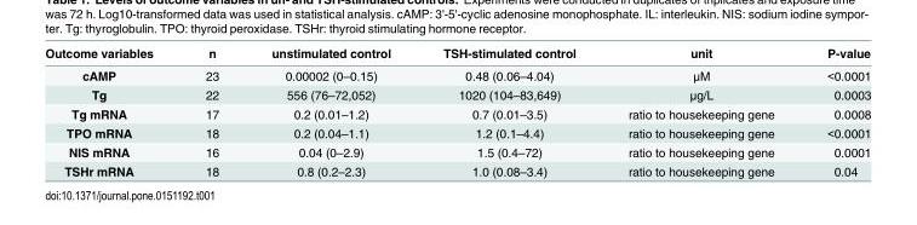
<table><thead><tr><td>Outcome variables</td><td>n</td><td>unstimulated control</td><td>TSH-stimulated control</td><td>unit</td><td>P-value</td></tr></thead><tbody><tr><td>cAMP</td><td>23</td><td>0.00002 (0–0.15)</td><td>0.48 (0.06–4.04)</td><td>μM</td><td>&lt;0.0001</td></tr><tr><td>Tg</td><td>22</td><td>556 (76–72,052)</td><td>1020 (104–83,649)</td><td>μg/L</td><td>0.0003</td></tr><tr><td>Tg mRNA</td><td>17</td><td>0.2 (0.01–1.2)</td><td>0.7 (0.01–3.5)</td><td>ratio to housekeeping gene</td><td>0.0008</td></tr><tr><td>TPO mRNA</td><td>18</td><td>0.2 (0.04–1.1)</td><td>1.2 (0.1–4.4)</td><td>ratio to housekeeping gene</td><td>&lt;0.0001</td></tr><tr><td>NIS mRNA</td><td>16</td><td>0.04 (0–2.9)</td><td>1.5 (0.4–72)</td><td>ratio to housekeeping gene</td><td>0.0001</td></tr><tr><td>TSHr mRNA</td><td>18</td><td>0.8 (0.2–2.3)</td><td>1.0 (0.08–3.4)</td><td>ratio to housekeeping gene</td><td>0.04</td></tr></tbody></table>